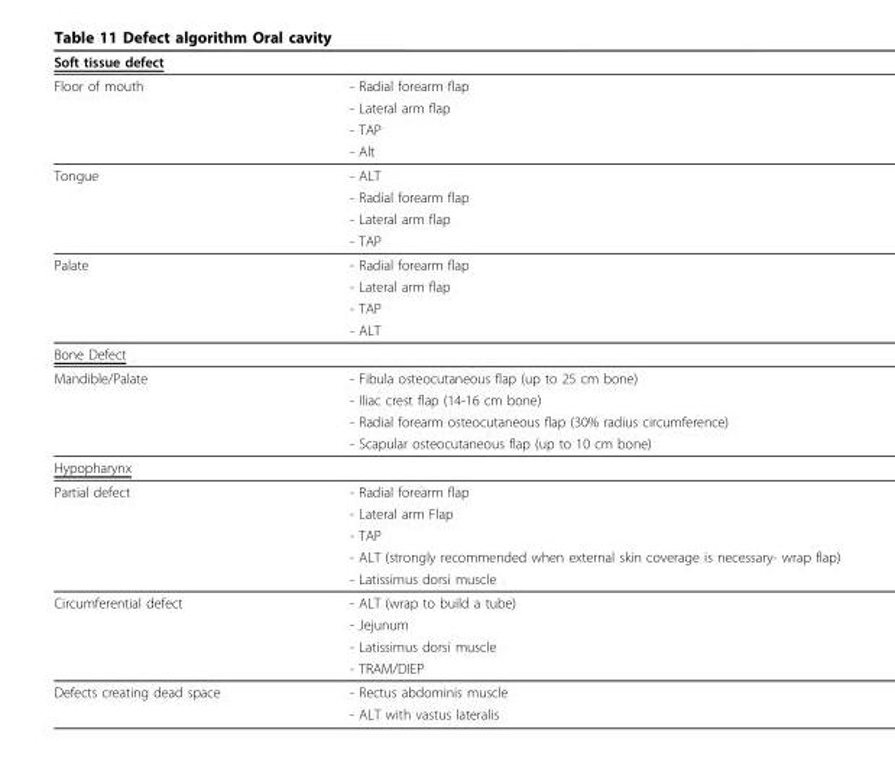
<table><thead><tr><td colspan="2">Soft tissue defect</td></tr><tr><td>Floor of mouth</td><td>- Radial forearm flap</td></tr></thead><tbody><tr><td></td><td>- Lateral arm flap</td></tr><tr><td></td><td>- TAP</td></tr><tr><td></td><td>- Alt</td></tr><tr><td rowspan="4">Tongue</td><td>- ALT</td></tr><tr><td>- Radial forearm flap</td></tr><tr><td>- Lateral arm flap</td></tr><tr><td>- TAP</td></tr><tr><td rowspan="4">Palate</td><td>- Radial forearm flap</td></tr><tr><td>- Lateral arm flap</td></tr><tr><td>- TAP</td></tr><tr><td>- ALT</td></tr><tr><td colspan="2">Bone Defect</td></tr><tr><td rowspan="4">Mandible/Palate</td><td>- Fibula osteocutaneous flap (up to 25 cm bone)</td></tr><tr><td>- Iliac crest flap (14-16 cm bone)</td></tr><tr><td>- Radial forearm osteocutaneous flap (30% radius circumference)</td></tr><tr><td>- Scapular osteocutaneous flap (up to 10 cm bone)</td></tr><tr><td colspan="2">Hypopharynx</td></tr><tr><td rowspan="5">Partial defect</td><td>- Radial forearm flap</td></tr><tr><td>- Lateral arm Flap</td></tr><tr><td>- TAP</td></tr><tr><td>- ALT (strongly recommended when external skin coverage is necessary- wrap flap)</td></tr><tr><td>- Latissimus dorsi muscle</td></tr><tr><td rowspan="4">Circumferential defect</td><td>- ALT (wrap to build a tube)</td></tr><tr><td>- Jejunum</td></tr><tr><td>- Latissimus dorsi muscle</td></tr><tr><td>- TRAM/DIEP</td></tr><tr><td rowspan="2">Defects creating dead space</td><td>- Rectus abdominis muscle</td></tr><tr><td>- ALT with vastus lateralis</td></tr></tbody></table>